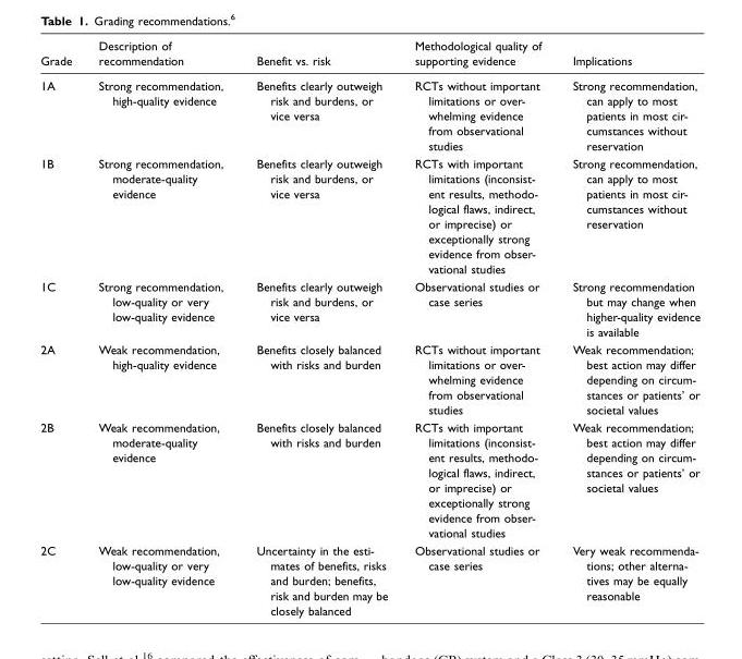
<table><thead><tr><td>Grade</td><td>Description of recommendation</td><td>Benefit vs. risk</td><td>Methodological quality of supporting evidence</td><td>Implications</td></tr></thead><tbody><tr><td>1A</td><td>Strong recommendation, high-quality evidence</td><td>Benefits clearly outweigh risk and burdens, or vice versa</td><td>RCTs without important limitations or over- whelming evidence from observational studies</td><td>Strong recommendation, can apply to most patients in most cir- cumstances without reservation</td></tr><tr><td>1B</td><td>Strong recommendation, moderate-quality evidence</td><td>Benefits clearly outweigh risk and burdens, or vice versa</td><td>RCTs with important limitations (inconsist- ent results, methodo- logical flaws, indirect, or imprecise) or exceptionally strong evidence from obser- vational studies</td><td>Strong recommendation, can apply to most patients in most cir- cumstances without reservation</td></tr><tr><td>1C</td><td>Strong recommendation, low-quality or very low-quality evidence</td><td>Benefits clearly outweigh risk and burdens, or vice versa</td><td>Observational studies or case series</td><td>Strong recommendation but may change when higher-quality evidence is available</td></tr><tr><td>2A</td><td>Weak recommendation, high-quality evidence</td><td>Benefits closely balanced with risks and burden</td><td>RCTs without important limitations or over- whelming evidence from observational studies</td><td>Weak recommendation; best action may differ depending on circum- stances or patients’ or societal values</td></tr><tr><td>2B</td><td>Weak recommendation, moderate-quality evidence</td><td>Benefits closely balanced with risks and burden</td><td>RCTs with important limitations (inconsist- ent results, methodo- logical flaws, indirect, or imprecise) or exceptionally strong evidence from obser- vational studies</td><td>Weak recommendation; best action may differ depending on circum- stances or patients’ or societal values</td></tr><tr><td>2C</td><td>Weak recommendation, low-quality or very low-quality evidence</td><td>Uncertainty in the esti- mates of benefits, risks and burden; benefits, risk and burden may be closely balanced</td><td>Observational studies or case series</td><td>Very weak recommenda- tions; other alterna- tives may be equally reasonable</td></tr></tbody></table>